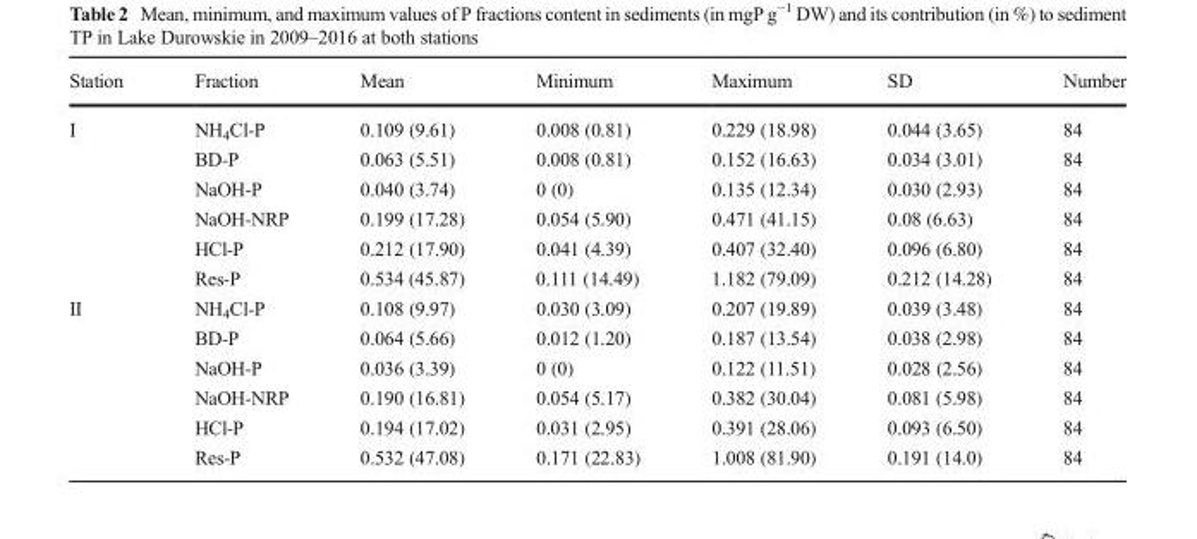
<table><thead><tr><td>Station</td><td>Fraction</td><td>Mean</td><td>Minimum</td><td>Maximum</td><td>SD</td><td>Number</td></tr></thead><tbody><tr><td rowspan="6">I</td><td>NH<sub>4</sub>Cl-P</td><td>0.109 (9.61)</td><td>0.008 (0.81)</td><td>0.229 (18.98)</td><td>0.044 (3.65)</td><td>84</td></tr><tr><td>BD-P</td><td>0.063 (5.51)</td><td>0.008 (0.81)</td><td>0.152 (16.63)</td><td>0.034 (3.01)</td><td>84</td></tr><tr><td>NaOH-P</td><td>0.040 (3.74)</td><td>0 (0)</td><td>0.135 (12.34)</td><td>0.030 (2.93)</td><td>84</td></tr><tr><td>NaOH-NRP</td><td>0.199 (17.28)</td><td>0.054 (5.90)</td><td>0.471 (41.15)</td><td>0.08 (6.63)</td><td>84</td></tr><tr><td>HCl-P</td><td>0.212 (17.90)</td><td>0.041 (4.39)</td><td>0.407 (32.40)</td><td>0.096 (6.80)</td><td>84</td></tr><tr><td>Res-P</td><td>0.534 (45.87)</td><td>0.111 (14.49)</td><td>1.182 (79.09)</td><td>0.212 (14.28)</td><td>84</td></tr><tr><td rowspan="6">II</td><td>NH<sub>4</sub>Cl-P</td><td>0.108 (9.97)</td><td>0.030 (3.09)</td><td>0.207 (19.89)</td><td>0.039 (3.48)</td><td>84</td></tr><tr><td>BD-P</td><td>0.064 (5.66)</td><td>0.012 (1.20)</td><td>0.187 (13.54)</td><td>0.038 (2.98)</td><td>84</td></tr><tr><td>NaOH-P</td><td>0.036 (3.39)</td><td>0 (0)</td><td>0.122 (11.51)</td><td>0.028 (2.56)</td><td>84</td></tr><tr><td>NaOH-NRP</td><td>0.190 (16.81)</td><td>0.054 (5.17)</td><td>0.382 (30.04)</td><td>0.081 (5.98)</td><td>84</td></tr><tr><td>HCl-P</td><td>0.194 (17.02)</td><td>0.031 (2.95)</td><td>0.391 (28.06)</td><td>0.093 (6.50)</td><td>84</td></tr><tr><td>Res-P</td><td>0.532 (47.08)</td><td>0.171 (22.83)</td><td>1.008 (81.90)</td><td>0.191 (14.0)</td><td>84</td></tr></tbody></table>